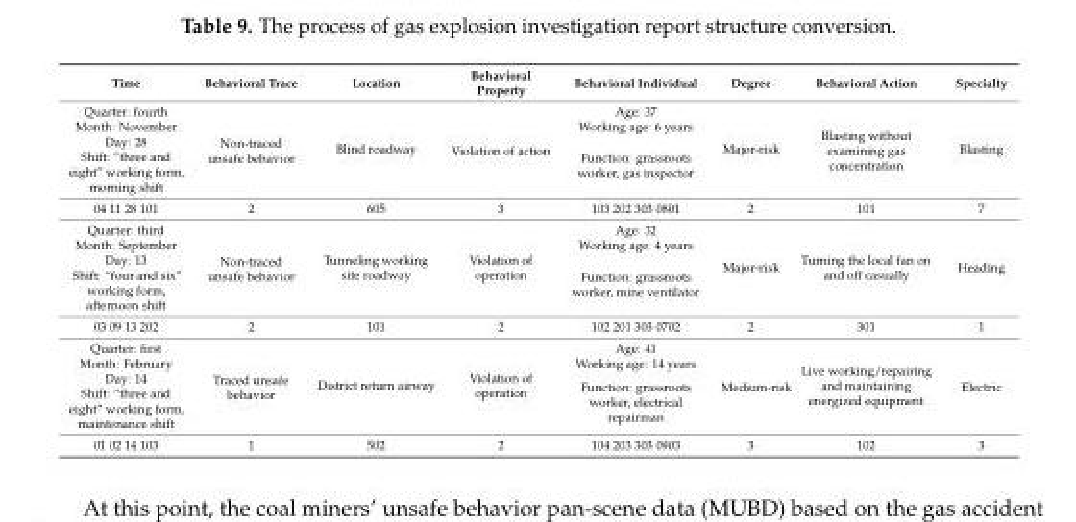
<table><thead><tr><td>Time</td><td>Behavioral Trace</td><td>Location</td><td>Behavioral Property</td><td>Behavioral Individual</td><td>Degree</td><td>Behavioral Action</td><td>Specialty</td></tr></thead><tbody><tr><td>Quarter: fourth</td><td rowspan="4">Non-traced unsafe behavior</td><td rowspan="4">Blind roadway</td><td rowspan="4">Violation of action</td><td>Age: 37</td><td rowspan="4">Major-risk</td><td rowspan="4">Blasting without examining gas concentration</td><td rowspan="4">Blasting</td></tr><tr><td>Month: November</td><td>Working age: 6 years</td></tr><tr><td>Day: 28</td><td rowspan="2">Function: grassroots worker, gas inspector</td></tr><tr><td>Shift: ”three and eight” working form, morning shift</td></tr><tr><td>04 11 28 101</td><td>2</td><td>605</td><td>3</td><td>103 202 303 0801</td><td>2</td><td>101</td><td>7</td></tr><tr><td>Quarter: third</td><td rowspan="4">Non-traced unsafe behavior</td><td rowspan="4">Tunneling working site roadway</td><td rowspan="4">Violation of operation</td><td>Age: 32</td><td rowspan="4">Major-risk</td><td rowspan="4">Turning the local fan on and off casually</td><td rowspan="4">Heading</td></tr><tr><td>Month: September</td><td>Working age: 4 years</td></tr><tr><td>Day: 13</td><td rowspan="2">Function: grassroots worker, mine ventilator</td></tr><tr><td>Shift: “four and six” working form, afternoon shift</td></tr><tr><td>03 09 13 202</td><td>2</td><td>101</td><td>2</td><td>102 201 303 0702</td><td>2</td><td>301</td><td>1</td></tr><tr><td>Quarter: first</td><td rowspan="4">Traced unsafe behavior</td><td rowspan="4">District return airway</td><td rowspan="4">Violation of operation</td><td>Age: 41</td><td rowspan="4">Medium-risk</td><td rowspan="4">Live working/repairing and maintaining energized equipment</td><td rowspan="4">Electric</td></tr><tr><td>Month: February</td><td>Working age: 14 years</td></tr><tr><td>Day: 14</td><td rowspan="2">Function: grassroots worker, electrical repairman</td></tr><tr><td>Shift: “three and eight” working form, maintenance shift</td></tr><tr><td>01 02 14 103</td><td>1</td><td>502</td><td>2</td><td>104 203 303 0903</td><td>3</td><td>102</td><td>3</td></tr></tbody></table>